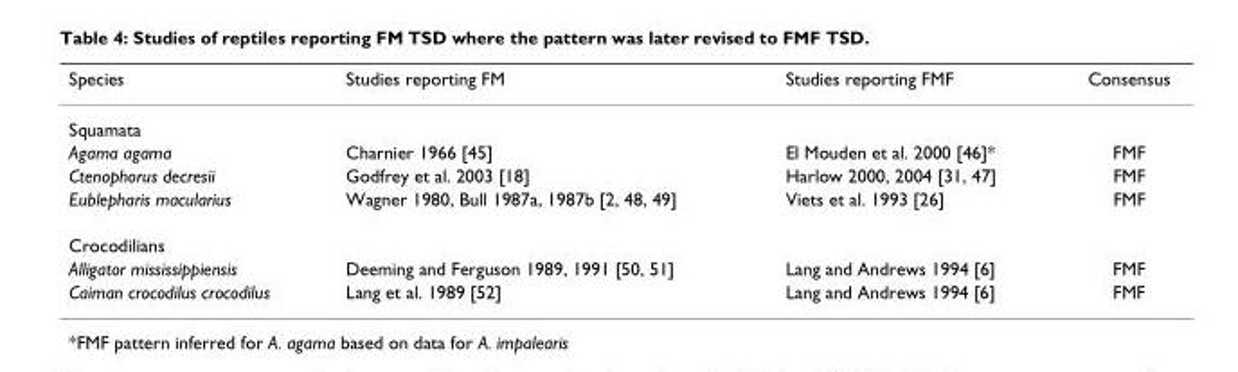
<table><thead><tr><td>Species</td><td>Studies reporting FM</td><td>Studies reporting FMF</td><td>Consensus</td></tr></thead><tbody><tr><td colspan="4">Squamata</td></tr><tr><td>Agama agama</td><td>Charnier 1966 [45]</td><td>El Mouden et al. 2000 [46]*</td><td>FMF</td></tr><tr><td>Ctenophorus decresii</td><td>Godfrey et al. 2003 [18]</td><td>Harlow 2000, 2004 [31, 47]</td><td>FMF</td></tr><tr><td>Eublepharis macularius</td><td>Wagner 1980, Bull 1987a, 1987b [2, 48, 49]</td><td>Viets et al. 1993 [26]</td><td>FMF</td></tr><tr><td colspan="4">Crocodilians</td></tr><tr><td>Alligator mississippiensis</td><td>Deeming and Ferguson 1989, 1991 [50, 51]</td><td>Lang and Andrews 1994 [6]</td><td>FMF</td></tr><tr><td>Caiman crocodilus crocodilus</td><td>Lang et al. 1989 [52]</td><td>Lang and Andrews 1994 [6]</td><td>FMF</td></tr></tbody></table>